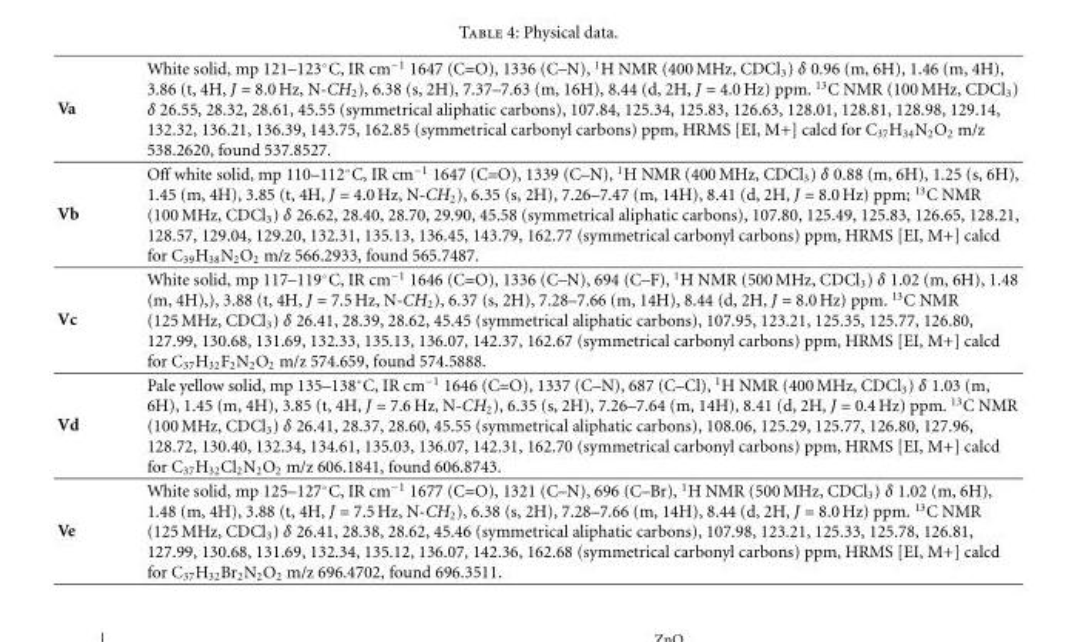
<table><tbody><tr><td>Va</td><td>White solid, mp 121–123◦C, IR cm−1 1647 (C=O), 1336 (C–N), 1H NMR (400 MHz, CDCl3) δ 0.96 (m, 6H), 1.46 (m, 4H), 3.86 (t, 4H, J = 8.0 Hz, N-CH2), 6.38 (s, 2H), 7.37–7.63 (m, 16H), 8.44 (d, 2H, J = 4.0 Hz) ppm. 13C NMR (100 MHz, CDCl3) δ 26.55, 28.32, 28.61, 45.55 (symmetrical aliphatic carbons), 107.84, 125.34, 125.83, 126.63, 128.01, 128.81, 128.98, 129.14, 132.32, 136.21, 136.39, 143.75, 162.85 (symmetrical carbonyl carbons) ppm, HRMS [EI, M+] calcd for C37H34N2O2 m/z 538.2620, found 537.8527.</td></tr><tr><td>Vb</td><td>Off white solid, mp 110–112◦C, IR cm−1 1647 (C=O), 1339 (C–N), 1H NMR (400 MHz, CDCl3) δ 0.88 (m, 6H), 1.25 (s, 6H), 1.45 (m, 4H), 3.85 (t, 4H, J = 4.0 Hz, N-CH2), 6.35 (s, 2H), 7.26–7.47 (m, 14H), 8.41 (d, 2H, J = 8.0 Hz) ppm; 13C NMR (100 MHz, CDCl3) δ 26.62, 28.40, 28.70, 29.90, 45.58 (symmetrical aliphatic carbons), 107.80, 125.49, 125.83, 126.65, 128.21, 128.57, 129.04, 129.20, 132.31, 135.13, 136.45, 143.79, 162.77 (symmetrical carbonyl carbons) ppm, HRMS [EI, M+] calcd for C39H38N2O2 m/z 566.2933, found 565.7487.</td></tr><tr><td>Vc</td><td>White solid, mp 117–119◦C, IR cm−1 1646 (C=O), 1336 (C–N), 694 (C–F), 1H NMR (500 MHz, CDCl3) δ 1.02 (m, 6H), 1.48 (m, 4H),), 3.88 (t, 4H, J = 7.5 Hz, N-CH2), 6.37 (s, 2H), 7.28–7.66 (m, 14H), 8.44 (d, 2H, J = 8.0 Hz) ppm. 13C NMR (125 MHz, CDCl3) δ 26.41, 28.39, 28.62, 45.45 (symmetrical aliphatic carbons), 107.95, 123.21, 125.35, 125.77, 126.80, 127.99, 130.68, 131.69, 132.33, 135.13, 136.07, 142.37, 162.67 (symmetrical carbonyl carbons) ppm, HRMS [EI, M+] calcd for C37H32F2N2O2 m/z 574.659, found 574.5888.</td></tr><tr><td>Vd</td><td>Pale yellow solid, mp 135–138◦C, IR cm−1 1646 (C=O), 1337 (C–N), 687 (C–Cl), 1H NMR (400 MHz, CDCl3) δ 1.03 (m, 6H), 1.45 (m, 4H), 3.85 (t, 4H, J = 7.6 Hz, N-CH2), 6.35 (s, 2H), 7.26–7.64 (m, 14H), 8.41 (d, 2H, J = 0.4 Hz) ppm. 13C NMR (100 MHz, CDCl3) δ 26.41, 28.37, 28.60, 45.55 (symmetrical aliphatic carbons), 108.06, 125.29, 125.77, 126.80, 127.96, 128.72, 130.40, 132.34, 134.61, 135.03, 136.07, 142.31, 162.70 (symmetrical carbonyl carbons) ppm, HRMS [EI, M+] calcd for C37H32Cl2N2O2 m/z 606.1841, found 606.8743.</td></tr><tr><td>Ve</td><td>White solid, mp 125–127◦C, IR cm−1 1677 (C=O), 1321 (C–N), 696 (C–Br), 1H NMR (500 MHz, CDCl3) δ 1.02 (m, 6H), 1.48 (m, 4H), 3.88 (t, 4H, J = 7.5 Hz, N-CH2), 6.38 (s, 2H), 7.28–7.66 (m, 14H), 8.44 (d, 2H, J = 8.0 Hz) ppm. 13C NMR (125 MHz, CDCl3) δ 26.41, 28.38, 28.62, 45.46 (symmetrical aliphatic carbons), 107.98, 123.21, 125.33, 125.78, 126.81, 127.99, 130.68, 131.69, 132.34, 135.12, 136.07, 142.36, 162.68 (symmetrical carbonyl carbons) ppm, HRMS [EI, M+] calcd for C37H32Br2N2O2 m/z 696.4702, found 696.3511.</td></tr></tbody></table>